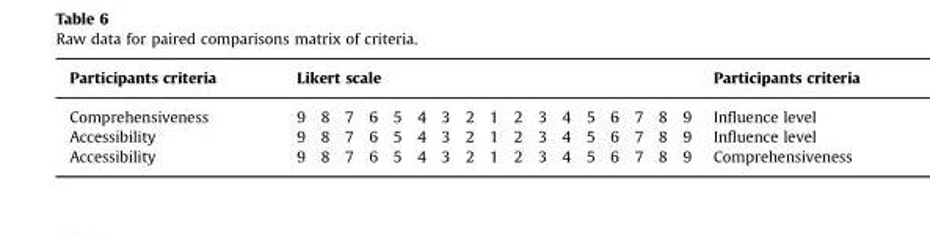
<table><thead><tr><td rowspan="2">Participants criteria Comprehensiveness</td><td colspan="17">Likert scale</td><td rowspan="2">Participants criteria Influence level</td></tr><tr><td>9</td><td>8</td><td>7</td><td>6</td><td>5</td><td>4</td><td>3</td><td>2</td><td>1</td><td>2</td><td>3</td><td>4</td><td>5</td><td>6</td><td>7</td><td>8</td><td>9</td></tr></thead><tbody><tr><td>Accessibility</td><td>9</td><td>8</td><td>7</td><td>6</td><td>5</td><td>4</td><td>3</td><td>2</td><td>1</td><td>2</td><td>3</td><td>4</td><td>5</td><td>6</td><td>7</td><td>8</td><td>9</td><td>Influence level</td></tr><tr><td>Accessibility</td><td>9</td><td>8</td><td>7</td><td>6</td><td>5</td><td>4</td><td>3</td><td>2</td><td>1</td><td>2</td><td>3</td><td>4</td><td>5</td><td>6</td><td>7</td><td>8</td><td>9</td><td>Comprehensiveness</td></tr></tbody></table>